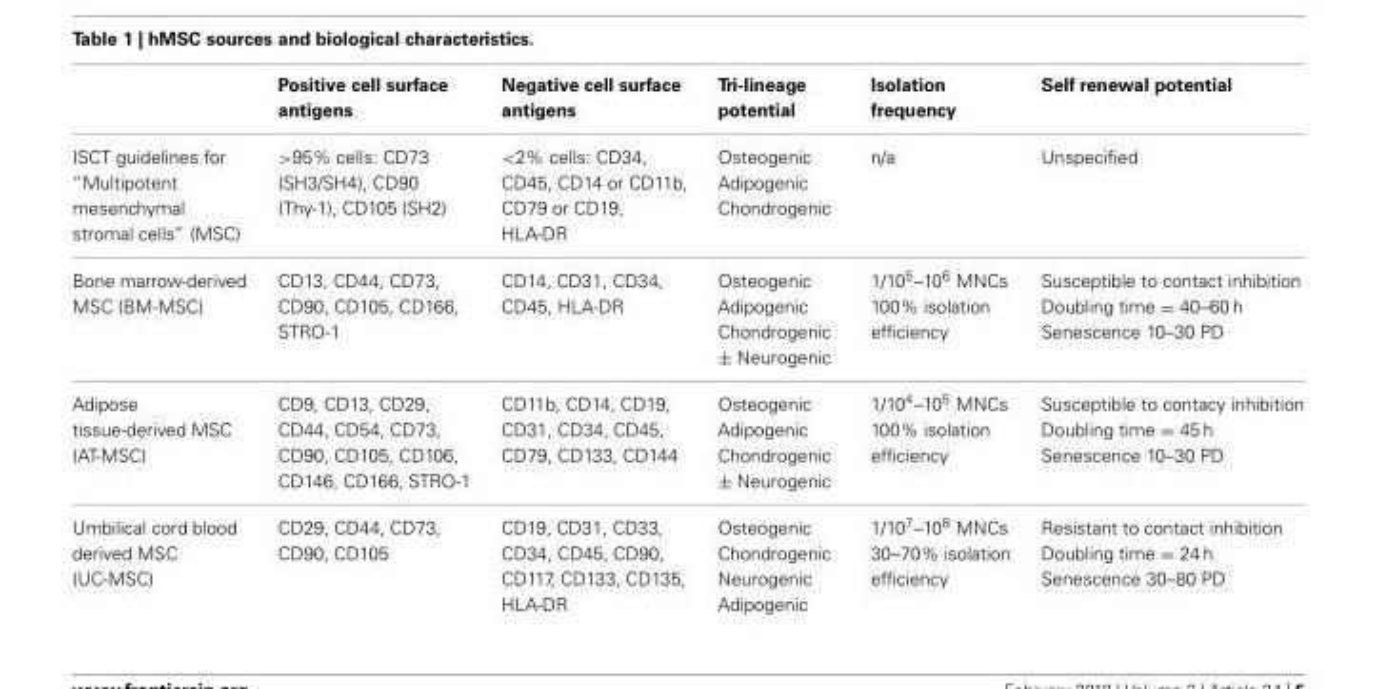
<table><thead><tr><td></td><td>Positive cell surface antigens</td><td>Negative cell surface antigens</td><td>Tri-lineage potential</td><td>Isolation frequency</td><td>Self renewal potential</td></tr></thead><tbody><tr><td>ISCT guidelines for “Multipotent mesenchymal stromal cells” (MSC)</td><td>&gt;95% cells: CD73 (SH3/SH4), CD90 (Thy-1), CD105 (SH2)</td><td>&lt;2% cells: CD34, CD45, CD14 or CD11b, CD79 or CD19, HLA-DR</td><td>Osteogenic Adipogenic Chondrogenic</td><td>n/a</td><td>Unspecified</td></tr><tr><td>Bone marrow-derived MSC (BM-MSC)</td><td>CD13, CD44, CD73, CD90, CD105, CD166, STRO-1</td><td>CD14, CD31, CD34, CD45, HLA-DR</td><td>Osteogenic Adipogenic Chondrogenic ± Neurogenic</td><td>1/10<sup>5</sup>–10<sup>6</sup> MNCs 100% isolation efficiency</td><td>Susceptible to contact inhibition Doubling time = 40–60 h Senescence 10–30 PD</td></tr><tr><td>Adipose tissue-derived MSC (AT-MSC)</td><td>CD9, CD13, CD29, CD44, CD54, CD73, CD90, CD105, CD106, CD146, CD166, STRO-1</td><td>CD11b, CD14, CD19, CD31, CD34, CD45, CD79, CD133, CD144</td><td>Osteogenic Adipogenic Chondrogenic ± Neurogenic</td><td>1/10<sup>4</sup>–10<sup>5</sup> MNCs 100% isolation efficiency</td><td>Susceptible to contacy inhibition Doubling time = 45 h Senescence 10–30 PD</td></tr><tr><td>Umbilical cord blood derived MSC (UC-MSC)</td><td>CD29, CD44, CD73, CD90, CD105</td><td>CD19, CD31, CD33, CD34, CD45, CD90, CD117, CD133, CD135, HLA-DR</td><td>Osteogenic Chondrogenic Neurogenic Adipogenic</td><td>1/10<sup>7</sup>–10<sup>8</sup> MNCs 30–70% isolation efficiency</td><td>Resistant to contact inhibition Doubling time = 24 h Senescence 30–80 PD</td></tr></tbody></table>